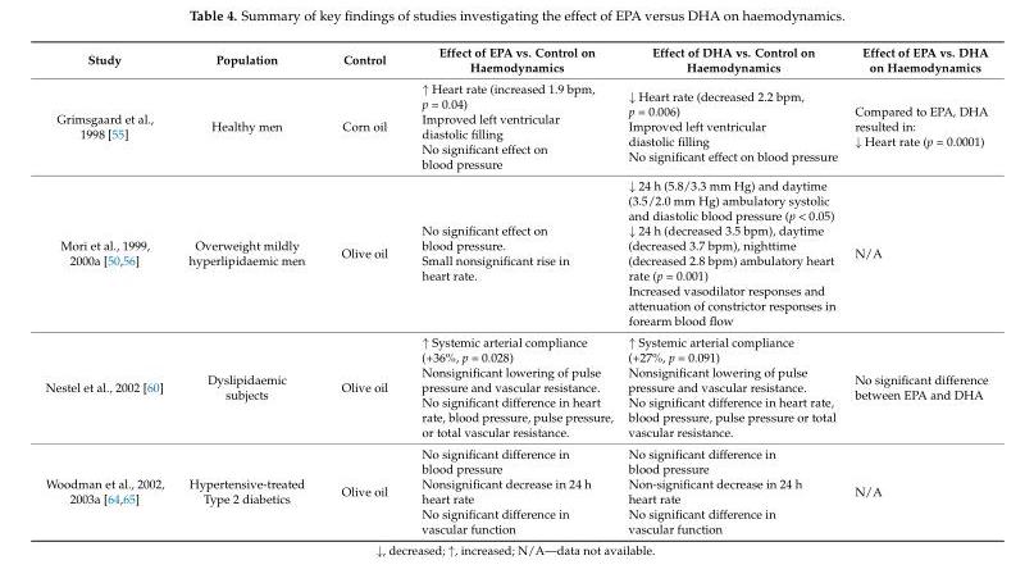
<table><thead><tr><td>Study</td><td>Population</td><td>Control</td><td>Effect of EPA vs. Control on Haemodynamics</td><td>Effect of DHA vs. Control on Haemodynamics</td><td>Effect of EPA vs. DHA on Haemodynamics</td></tr></thead><tbody><tr><td>Grimsgaard et al., 1998 [55]</td><td>Healthy men</td><td>Corn oil</td><td>↑ Heart rate (increased 1.9 bpm, p = 0.04) Improved left ventricular diastolic filling No significant effect on blood pressure</td><td>↓ Heart rate (decreased 2.2 bpm, p = 0.006) Improved left ventricular diastolic filling No significant effect on blood pressure</td><td>Compared to EPA, DHA resulted in: ↓ Heart rate (p = 0.0001)</td></tr><tr><td>Mori et al., 1999, 2000a [50,56]</td><td>Overweight mildly hyperlipidaemic men</td><td>Olive oil</td><td>No significant effect on blood pressure. Small nonsignificant rise in heart rate.</td><td>↓ 24 h (5.8/3.3 mm Hg) and daytime (3.5/2.0 mm Hg) ambulatory systolic and diastolic blood pressure (p &lt; 0.05) ↓ 24 h (decreased 3.5 bpm), daytime (decreased 3.7 bpm), nighttime (decreased 2.8 bpm) ambulatory heart rate (p = 0.001) Increased vasodilator responses and attenuation of constrictor responses in forearm blood flow</td><td>N/A</td></tr><tr><td>Nestel et al., 2002 [60]</td><td>Dyslipidaemic subjects</td><td>Olive oil</td><td>↑ Systemic arterial compliance (+36%, p = 0.028) Nonsignificant lowering of pulse pressure and vascular resistance. No significant difference in heart rate, blood pressure, pulse pressure, or total vascular resistance.</td><td>↑ Systemic arterial compliance (+27%, p = 0.091) Nonsignificant lowering of pulse pressure and vascular resistance. No significant difference in heart rate, blood pressure, pulse pressure or total vascular resistance.</td><td>No significant difference between EPA and DHA</td></tr><tr><td>Woodman et al., 2002, 2003a [64,65]</td><td>Hypertensive-treated Type 2 diabetics</td><td>Olive oil</td><td>No significant difference in blood pressure Nonsignificant decrease in 24 h heart rate No significant difference in vascular function</td><td>No significant difference in blood pressure Non-significant decrease in 24 h heart rate No significant difference in vascular function</td><td>N/A</td></tr></tbody></table>